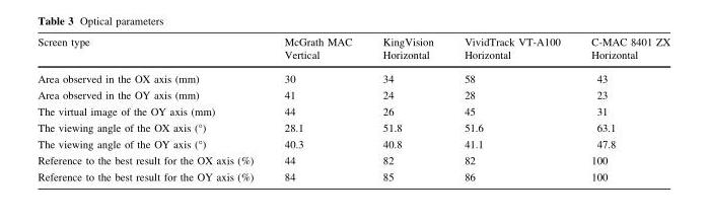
<table><thead><tr><td rowspan="2">Screen type</td><td rowspan="2">McGrath MAC Vertical</td><td rowspan="2">KingVision Horizontal</td><td rowspan="2">VividTrack VT-A100 Horizontal</td><td rowspan="2">C-MAC 8401 ZX Horizontal</td></tr><tr></tr></thead><tbody><tr><td>Area observed in the OX axis (mm)</td><td>30</td><td>34</td><td>58</td><td>43</td></tr><tr><td>Area observed in the OY axis (mm)</td><td>41</td><td>24</td><td>28</td><td>23</td></tr><tr><td>The virtual image of the OY axis (mm)</td><td>44</td><td>26</td><td>45</td><td>31</td></tr><tr><td>The viewing angle of the OX axis (°)</td><td>28.1</td><td>51.8</td><td>51.6</td><td>63.1</td></tr><tr><td>The viewing angle of the OY axis (°)</td><td>40.3</td><td>40.8</td><td>41.1</td><td>47.8</td></tr><tr><td>Reference to the best result for the OX axis (%)</td><td>44</td><td>82</td><td>82</td><td>100</td></tr><tr><td>Reference to the best result for the OY axis (%)</td><td>84</td><td>85</td><td>86</td><td>100</td></tr></tbody></table>